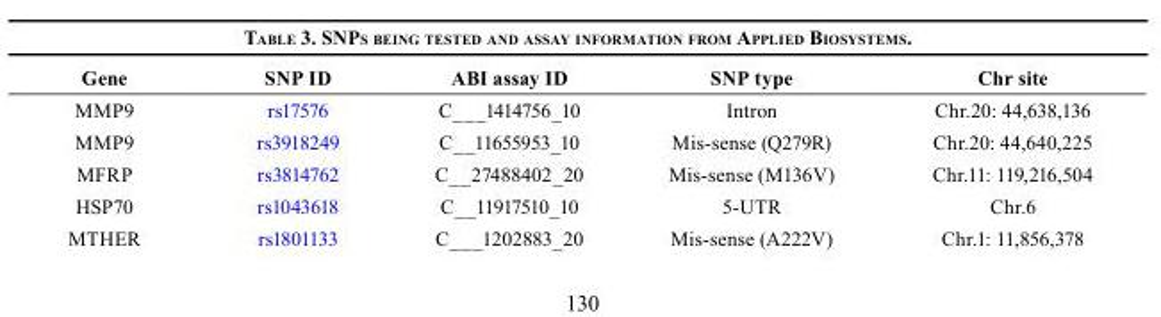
<table><thead><tr><td>Gene</td><td>SNP ID</td><td>ABI assay ID</td><td>SNP type</td><td>Chr site</td></tr></thead><tbody><tr><td>MMP9</td><td>rs17576</td><td>C___1414756_10</td><td>Intron</td><td>Chr.20: 44,638,136</td></tr><tr><td>MMP9</td><td>rs3918249</td><td>C__11655953_10</td><td>Mis-sense (Q279R)</td><td>Chr.20: 44,640,225</td></tr><tr><td>MFRP</td><td>rs3814762</td><td>C__27488402_20</td><td>Mis-sense (M136V)</td><td>Chr.11: 119,216,504</td></tr><tr><td>HSP70</td><td>rs1043618</td><td>C__11917510_10</td><td>5-UTR</td><td>Chr.6</td></tr><tr><td>MTHER</td><td>rs1801133</td><td>C___1202883_20</td><td>Mis-sense (A222V)</td><td>Chr.1: 11,856,378</td></tr></tbody></table>